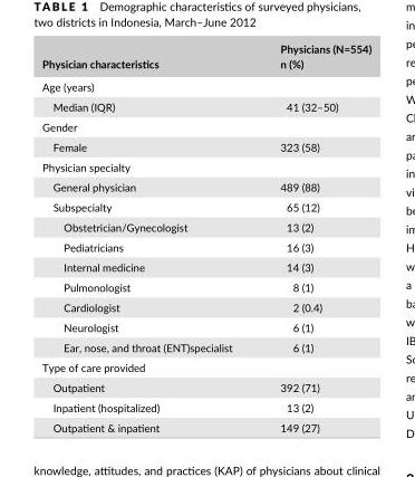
<table><thead><tr><td>Physician characteristics</td><td>Physicians (N=554) n (%)</td></tr></thead><tbody><tr><td colspan="2">Age (years)</td></tr><tr><td>Median (IQR)</td><td>41 (32–50)</td></tr><tr><td colspan="2">Gender</td></tr><tr><td>Female</td><td>323 (58)</td></tr><tr><td colspan="2">Physician specialty</td></tr><tr><td>General physician</td><td>489 (88)</td></tr><tr><td>Subspecialty</td><td>65 (12)</td></tr><tr><td>Obstetrician/Gynecologist</td><td>13 (2)</td></tr><tr><td>Pediatricians</td><td>16 (3)</td></tr><tr><td>Internal medicine</td><td>14 (3)</td></tr><tr><td>Pulmonologist</td><td>8 (1)</td></tr><tr><td>Cardiologist</td><td>2 (0.4)</td></tr><tr><td>Neurologist</td><td>6 (1)</td></tr><tr><td>Ear, nose, and throat (ENT)specialist</td><td>6 (1)</td></tr><tr><td colspan="2">Type of care provided</td></tr><tr><td>Outpatient</td><td>392 (71)</td></tr><tr><td>Inpatient (hospitalized)</td><td>13 (2)</td></tr><tr><td>Outpatient &amp; inpatient</td><td>149 (27)</td></tr></tbody></table>